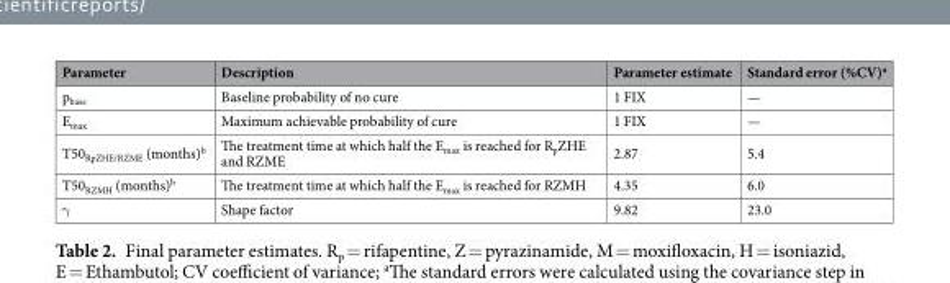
<table><thead><tr><td>Parameter</td><td>Description</td><td>Parameter estimate</td><td>Standard error (%CV)<sup>a</sup></td></tr></thead><tbody><tr><td>p<sub>base</sub></td><td>Baseline probability of no cure</td><td>1 FIX</td><td>—</td></tr><tr><td>E<sub>max</sub></td><td>Maximum achievable probability of cure</td><td>1 FIX</td><td>—</td></tr><tr><td>T50<sub>RpZHE/RZME</sub> (months)<sup>b</sup></td><td>The treatment time at which half the E<sub>max</sub> is reached for R<sub>p</sub>ZHE and RZME</td><td>2.87</td><td>5.4</td></tr><tr><td>T50<sub>RZMH</sub> (months)<sup>b</sup></td><td>The treatment time at which half the E<sub>max</sub> is reached for RZMH</td><td>4.35</td><td>6.0</td></tr><tr><td>γ</td><td>Shape factor</td><td>9.82</td><td>23.0</td></tr></tbody></table>